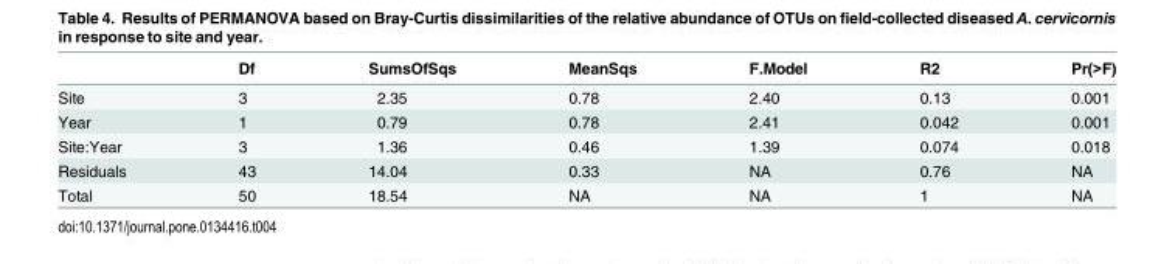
<table><thead><tr><td></td><td>Df</td><td>SumsOfSqs</td><td>MeanSqs</td><td>F.Model</td><td>R2</td><td>Pr(&gt;F)</td></tr></thead><tbody><tr><td>Site</td><td>3</td><td>2.35</td><td>0.78</td><td>2.40</td><td>0.13</td><td>0.001</td></tr><tr><td>Year</td><td>1</td><td>0.79</td><td>0.78</td><td>2.41</td><td>0.042</td><td>0.001</td></tr><tr><td>Site:Year</td><td>3</td><td>1.36</td><td>0.46</td><td>1.39</td><td>0.074</td><td>0.018</td></tr><tr><td>Residuals</td><td>43</td><td>14.04</td><td>0.33</td><td>NA</td><td>0.76</td><td>NA</td></tr><tr><td>Total</td><td>50</td><td>18.54</td><td>NA</td><td>NA</td><td>1</td><td>NA</td></tr></tbody></table>